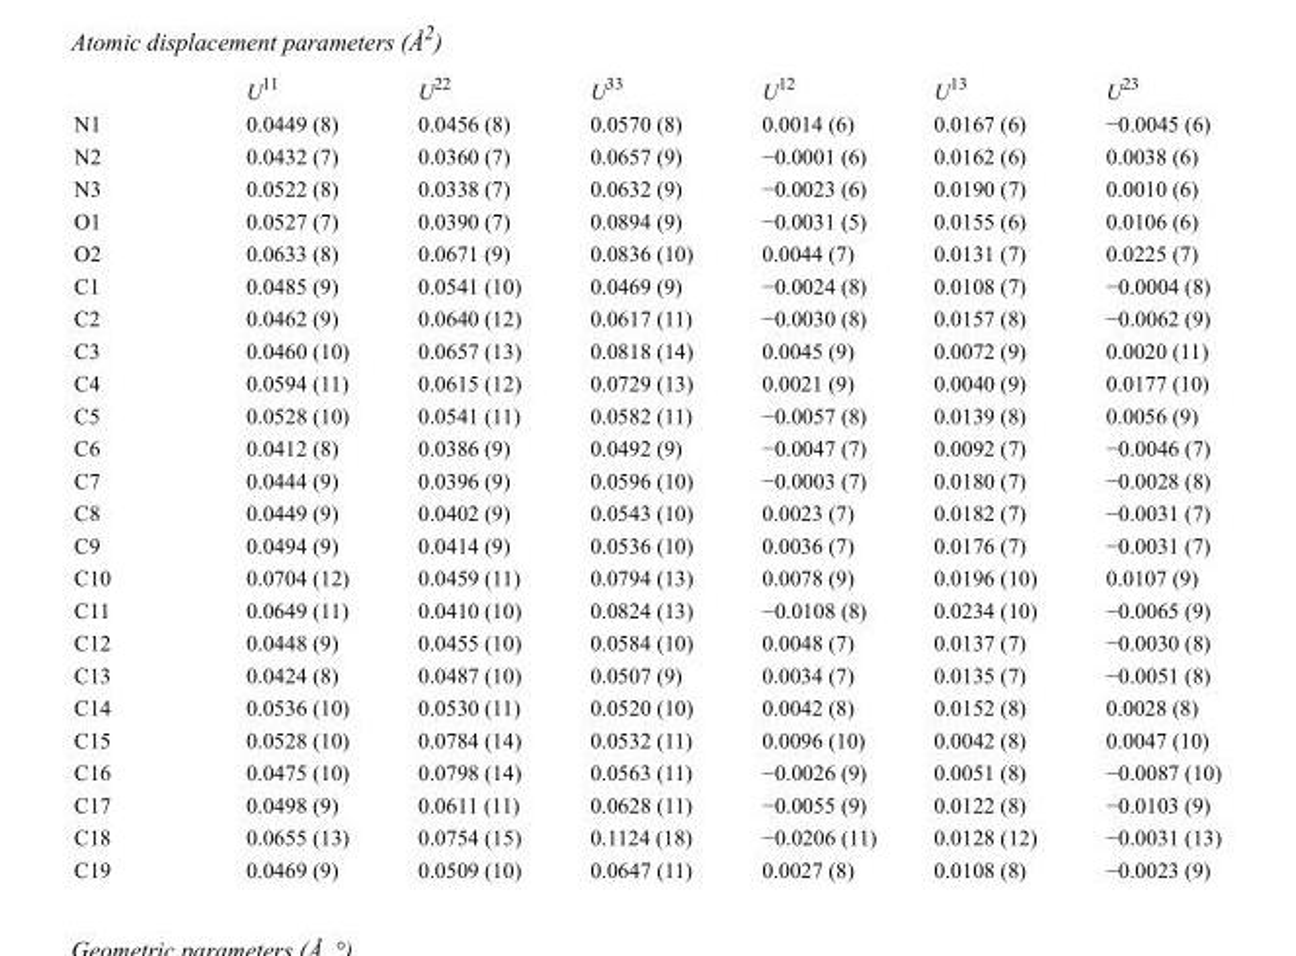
<table><thead><tr><td></td><td>U<sup>11</sup></td><td>U<sup>22</sup></td><td>U<sup>33</sup></td><td>U<sup>12</sup></td><td>U<sup>13</sup></td><td>U<sup>23</sup></td></tr></thead><tbody><tr><td>N1</td><td>0.0449 (8)</td><td>0.0456 (8)</td><td>0.0570 (8)</td><td>0.0014 (6)</td><td>0.0167 (6)</td><td>−0.0045 (6)</td></tr><tr><td>N2</td><td>0.0432 (7)</td><td>0.0360 (7)</td><td>0.0657 (9)</td><td>−0.0001 (6)</td><td>0.0162 (6)</td><td>0.0038 (6)</td></tr><tr><td>N3</td><td>0.0522 (8)</td><td>0.0338 (7)</td><td>0.0632 (9)</td><td>−0.0023 (6)</td><td>0.0190 (7)</td><td>0.0010 (6)</td></tr><tr><td>O1</td><td>0.0527 (7)</td><td>0.0390 (7)</td><td>0.0894 (9)</td><td>−0.0031 (5)</td><td>0.0155 (6)</td><td>0.0106 (6)</td></tr><tr><td>O2</td><td>0.0633 (8)</td><td>0.0671 (9)</td><td>0.0836 (10)</td><td>0.0044 (7)</td><td>0.0131 (7)</td><td>0.0225 (7)</td></tr><tr><td>C1</td><td>0.0485 (9)</td><td>0.0541 (10)</td><td>0.0469 (9)</td><td>−0.0024 (8)</td><td>0.0108 (7)</td><td>−0.0004 (8)</td></tr><tr><td>C2</td><td>0.0462 (9)</td><td>0.0640 (12)</td><td>0.0617 (11)</td><td>−0.0030 (8)</td><td>0.0157 (8)</td><td>−0.0062 (9)</td></tr><tr><td>C3</td><td>0.0460 (10)</td><td>0.0657 (13)</td><td>0.0818 (14)</td><td>0.0045 (9)</td><td>0.0072 (9)</td><td>0.0020 (11)</td></tr><tr><td>C4</td><td>0.0594 (11)</td><td>0.0615 (12)</td><td>0.0729 (13)</td><td>0.0021 (9)</td><td>0.0040 (9)</td><td>0.0177 (10)</td></tr><tr><td>C5</td><td>0.0528 (10)</td><td>0.0541 (11)</td><td>0.0582 (11)</td><td>−0.0057 (8)</td><td>0.0139 (8)</td><td>0.0056 (9)</td></tr><tr><td>C6</td><td>0.0412 (8)</td><td>0.0386 (9)</td><td>0.0492 (9)</td><td>−0.0047 (7)</td><td>0.0092 (7)</td><td>−0.0046 (7)</td></tr><tr><td>C7</td><td>0.0444 (9)</td><td>0.0396 (9)</td><td>0.0596 (10)</td><td>−0.0003 (7)</td><td>0.0180 (7)</td><td>−0.0028 (8)</td></tr><tr><td>C8</td><td>0.0449 (9)</td><td>0.0402 (9)</td><td>0.0543 (10)</td><td>0.0023 (7)</td><td>0.0182 (7)</td><td>−0.0031 (7)</td></tr><tr><td>C9</td><td>0.0494 (9)</td><td>0.0414 (9)</td><td>0.0536 (10)</td><td>0.0036 (7)</td><td>0.0176 (7)</td><td>−0.0031 (7)</td></tr><tr><td>C10</td><td>0.0704 (12)</td><td>0.0459 (11)</td><td>0.0794 (13)</td><td>0.0078 (9)</td><td>0.0196 (10)</td><td>0.0107 (9)</td></tr><tr><td>C11</td><td>0.0649 (11)</td><td>0.0410 (10)</td><td>0.0824 (13)</td><td>−0.0108 (8)</td><td>0.0234 (10)</td><td>−0.0065 (9)</td></tr><tr><td>C12</td><td>0.0448 (9)</td><td>0.0455 (10)</td><td>0.0584 (10)</td><td>0.0048 (7)</td><td>0.0137 (7)</td><td>−0.0030 (8)</td></tr><tr><td>C13</td><td>0.0424 (8)</td><td>0.0487 (10)</td><td>0.0507 (9)</td><td>0.0034 (7)</td><td>0.0135 (7)</td><td>−0.0051 (8)</td></tr><tr><td>C14</td><td>0.0536 (10)</td><td>0.0530 (11)</td><td>0.0520 (10)</td><td>0.0042 (8)</td><td>0.0152 (8)</td><td>0.0028 (8)</td></tr><tr><td>C15</td><td>0.0528 (10)</td><td>0.0784 (14)</td><td>0.0532 (11)</td><td>0.0096 (10)</td><td>0.0042 (8)</td><td>0.0047 (10)</td></tr><tr><td>C16</td><td>0.0475 (10)</td><td>0.0798 (14)</td><td>0.0563 (11)</td><td>−0.0026 (9)</td><td>0.0051 (8)</td><td>−0.0087 (10)</td></tr><tr><td>C17</td><td>0.0498 (9)</td><td>0.0611 (11)</td><td>0.0628 (11)</td><td>−0.0055 (9)</td><td>0.0122 (8)</td><td>−0.0103 (9)</td></tr><tr><td>C18</td><td>0.0655 (13)</td><td>0.0754 (15)</td><td>0.1124 (18)</td><td>−0.0206 (11)</td><td>0.0128 (12)</td><td>−0.0031 (13)</td></tr><tr><td>C19</td><td>0.0469 (9)</td><td>0.0509 (10)</td><td>0.0647 (11)</td><td>0.0027 (8)</td><td>0.0108 (8)</td><td>−0.0023 (9)</td></tr></tbody></table>